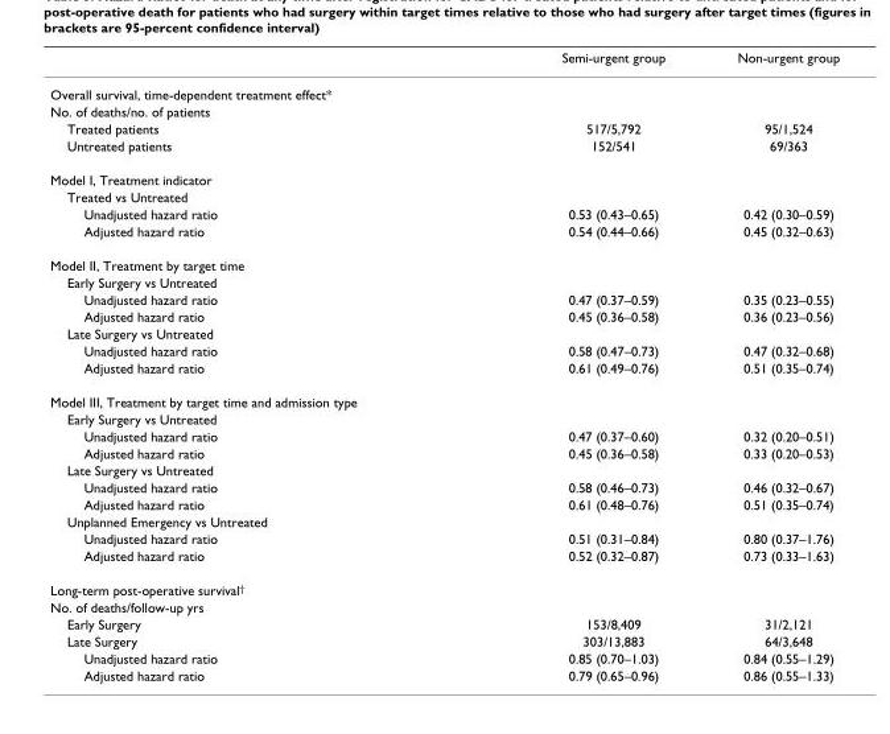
<table><thead><tr><td></td><td>Semi-urgent group</td><td>Non-urgent group</td></tr></thead><tbody><tr><td colspan="3">Overall survival, time-dependent treatment effect*</td></tr><tr><td colspan="3">No. of deaths/no. of patients</td></tr><tr><td>Treated patients</td><td>517/5,792</td><td>95/1,524</td></tr><tr><td>Untreated patients</td><td>152/541</td><td>69/363</td></tr><tr><td colspan="3">Model I, Treatment indicator</td></tr><tr><td colspan="3">Treated vs Untreated</td></tr><tr><td>Unadjusted hazard ratio</td><td>0.53 (0.43–0.65)</td><td>0.42 (0.30–0.59)</td></tr><tr><td>Adjusted hazard ratio</td><td>0.54 (0.44–0.66)</td><td>0.45 (0.32–0.63)</td></tr><tr><td colspan="3">Model II, Treatment by target time</td></tr><tr><td colspan="3">Early Surgery vs Untreated</td></tr><tr><td>Unadjusted hazard ratio</td><td>0.47 (0.37–0.59)</td><td>0.35 (0.23–0.55)</td></tr><tr><td>Adjusted hazard ratio</td><td>0.45 (0.36–0.58)</td><td>0.36 (0.23–0.56)</td></tr><tr><td colspan="3">Late Surgery vs Untreated</td></tr><tr><td>Unadjusted hazard ratio</td><td>0.58 (0.47–0.73)</td><td>0.47 (0.32–0.68)</td></tr><tr><td>Adjusted hazard ratio</td><td>0.61 (0.49–0.76)</td><td>0.51 (0.35–0.74)</td></tr><tr><td colspan="3">Model III, Treatment by target time and admission type</td></tr><tr><td colspan="3">Early Surgery vs Untreated</td></tr><tr><td>Unadjusted hazard ratio</td><td>0.47 (0.37–0.60)</td><td>0.32 (0.20–0.51)</td></tr><tr><td>Adjusted hazard ratio</td><td>0.45 (0.36–0.58)</td><td>0.33 (0.20–0.53)</td></tr><tr><td colspan="3">Late Surgery vs Untreated</td></tr><tr><td>Unadjusted hazard ratio</td><td>0.58 (0.46–0.73)</td><td>0.46 (0.32–0.67)</td></tr><tr><td>Adjusted hazard ratio</td><td>0.61 (0.48–0.76)</td><td>0.51 (0.35–0.74)</td></tr><tr><td colspan="3">Unplanned Emergency vs Untreated</td></tr><tr><td>Unadjusted hazard ratio</td><td>0.51 (0.31–0.84)</td><td>0.80 (0.37–1.76)</td></tr><tr><td>Adjusted hazard ratio</td><td>0.52 (0.32–0.87)</td><td>0.73 (0.33–1.63)</td></tr><tr><td colspan="3">Long-term post-operative survival<sup>†</sup></td></tr><tr><td colspan="3">No. of deaths/follow-up yrs</td></tr><tr><td>Early Surgery</td><td>153/8,409</td><td>31/2,121</td></tr><tr><td>Late Surgery</td><td>303/13,883</td><td>64/3,648</td></tr><tr><td>Unadjusted hazard ratio</td><td>0.85 (0.70–1.03)</td><td>0.84 (0.55–1.29)</td></tr><tr><td>Adjusted hazard ratio</td><td>0.79 (0.65–0.96)</td><td>0.86 (0.55–1.33)</td></tr></tbody></table>